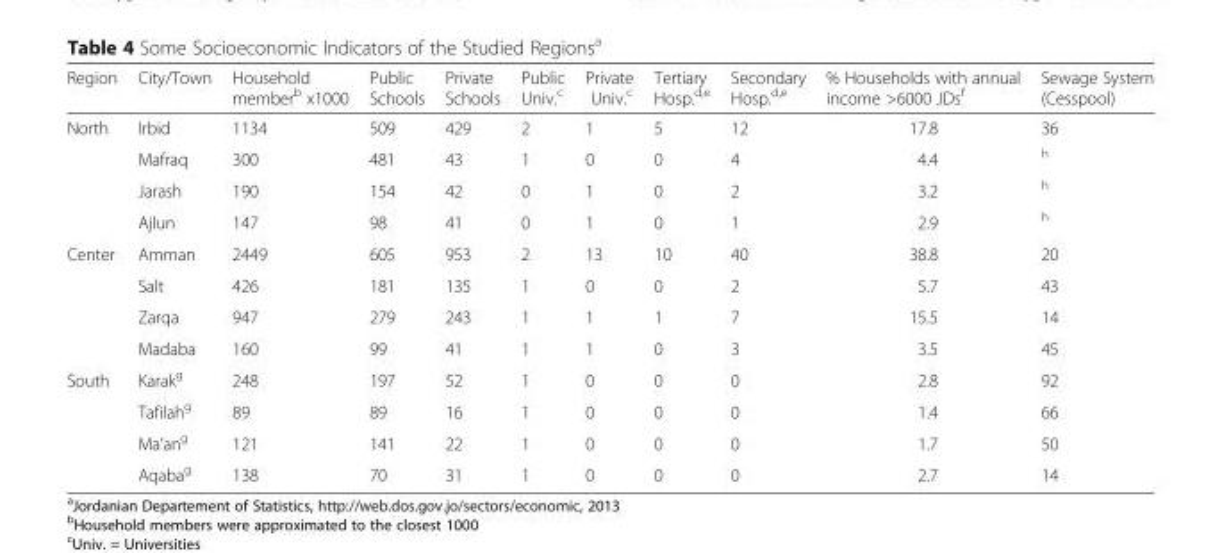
<table><thead><tr><td>Region</td><td>City/Town</td><td>Household member<sup>b</sup> x1000</td><td>Public Schools</td><td>Private Schools</td><td>Public Univ.<sup>c</sup></td><td>Private Univ.<sup>c</sup></td><td>Tertiary Hosp.<sup>d,e</sup></td><td>Secondary Hosp.<sup>d,e</sup></td><td>% Households with annual income &gt;6000 JDs<sup>f</sup></td><td>Sewage System (Cesspool)</td></tr></thead><tbody><tr><td rowspan="4">North</td><td>Irbid</td><td>1134</td><td>509</td><td>429</td><td>2</td><td>1</td><td>5</td><td>12</td><td>17.8</td><td>36</td></tr><tr><td>Mafraq</td><td>300</td><td>481</td><td>43</td><td>1</td><td>0</td><td>0</td><td>4</td><td>4.4</td><td><sup>h</sup></td></tr><tr><td>Jarash</td><td>190</td><td>154</td><td>42</td><td>0</td><td>1</td><td>0</td><td>2</td><td>3.2</td><td><sup>h</sup></td></tr><tr><td>Ajlun</td><td>147</td><td>98</td><td>41</td><td>0</td><td>1</td><td>0</td><td>1</td><td>2.9</td><td><sup>h</sup></td></tr><tr><td rowspan="4">Center</td><td>Amman</td><td>2449</td><td>605</td><td>953</td><td>2</td><td>13</td><td>10</td><td>40</td><td>38.8</td><td>20</td></tr><tr><td>Salt</td><td>426</td><td>181</td><td>135</td><td>1</td><td>0</td><td>0</td><td>2</td><td>5.7</td><td>43</td></tr><tr><td>Zarqa</td><td>947</td><td>279</td><td>243</td><td>1</td><td>1</td><td>1</td><td>7</td><td>15.5</td><td>14</td></tr><tr><td>Madaba</td><td>160</td><td>99</td><td>41</td><td>1</td><td>1</td><td>0</td><td>3</td><td>3.5</td><td>45</td></tr><tr><td rowspan="4">South</td><td>Karak<sup>g</sup></td><td>248</td><td>197</td><td>52</td><td>1</td><td>0</td><td>0</td><td>0</td><td>2.8</td><td>92</td></tr><tr><td>Tafilah<sup>g</sup></td><td>89</td><td>89</td><td>16</td><td>1</td><td>0</td><td>0</td><td>0</td><td>1.4</td><td>66</td></tr><tr><td>Ma’an<sup>g</sup></td><td>121</td><td>141</td><td>22</td><td>1</td><td>0</td><td>0</td><td>0</td><td>1.7</td><td>50</td></tr><tr><td>Aqaba<sup>g</sup></td><td>138</td><td>70</td><td>31</td><td>1</td><td>0</td><td>0</td><td>0</td><td>2.7</td><td>14</td></tr></tbody></table>